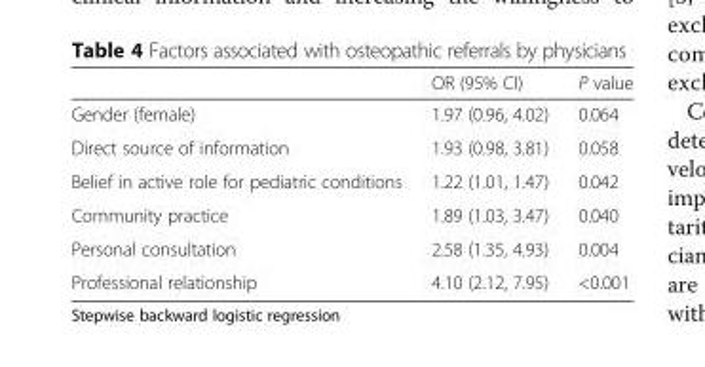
<table><thead><tr><td></td><td>OR (95% CI)</td><td>P value</td></tr></thead><tbody><tr><td>Gender (female)</td><td>1.97 (0.96, 4.02)</td><td>0.064</td></tr><tr><td>Direct source of information</td><td>1.93 (0.98, 3.81)</td><td>0.058</td></tr><tr><td>Belief in active role for pediatric conditions</td><td>1.22 (1.01, 1.47)</td><td>0.042</td></tr><tr><td>Community practice</td><td>1.89 (1.03, 3.47)</td><td>0.040</td></tr><tr><td>Personal consultation</td><td>2.58 (1.35, 4.93)</td><td>0.004</td></tr><tr><td>Professional relationship</td><td>4.10 (2.12, 7.95)</td><td>&lt;0.001</td></tr></tbody></table>